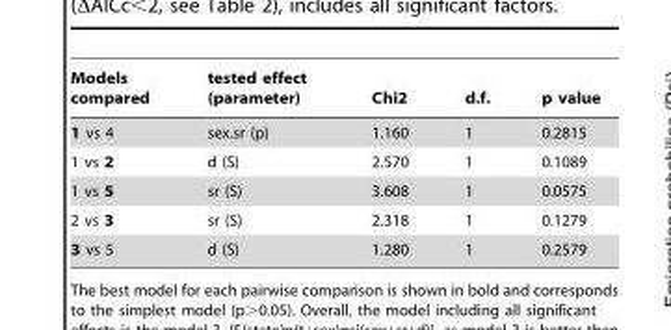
<table><thead><tr><td>Models compared</td><td>tested effect (parameter)</td><td>Chi2</td><td>d.f.</td><td>p value</td></tr></thead><tbody><tr><td>1 vs 4</td><td>sex.sr (p)</td><td>1.160</td><td>1</td><td>0.2815</td></tr><tr><td>1 vs 2</td><td>d (S)</td><td>2.570</td><td>1</td><td>0.1089</td></tr><tr><td>1 vs 5</td><td>sr (S)</td><td>3.608</td><td>1</td><td>0.0575</td></tr><tr><td>2 vs 3</td><td>sr (S)</td><td>2.318</td><td>1</td><td>0.1279</td></tr><tr><td>3 vs 5</td><td>d (S)</td><td>1.280</td><td>1</td><td>0.2579</td></tr></tbody></table>